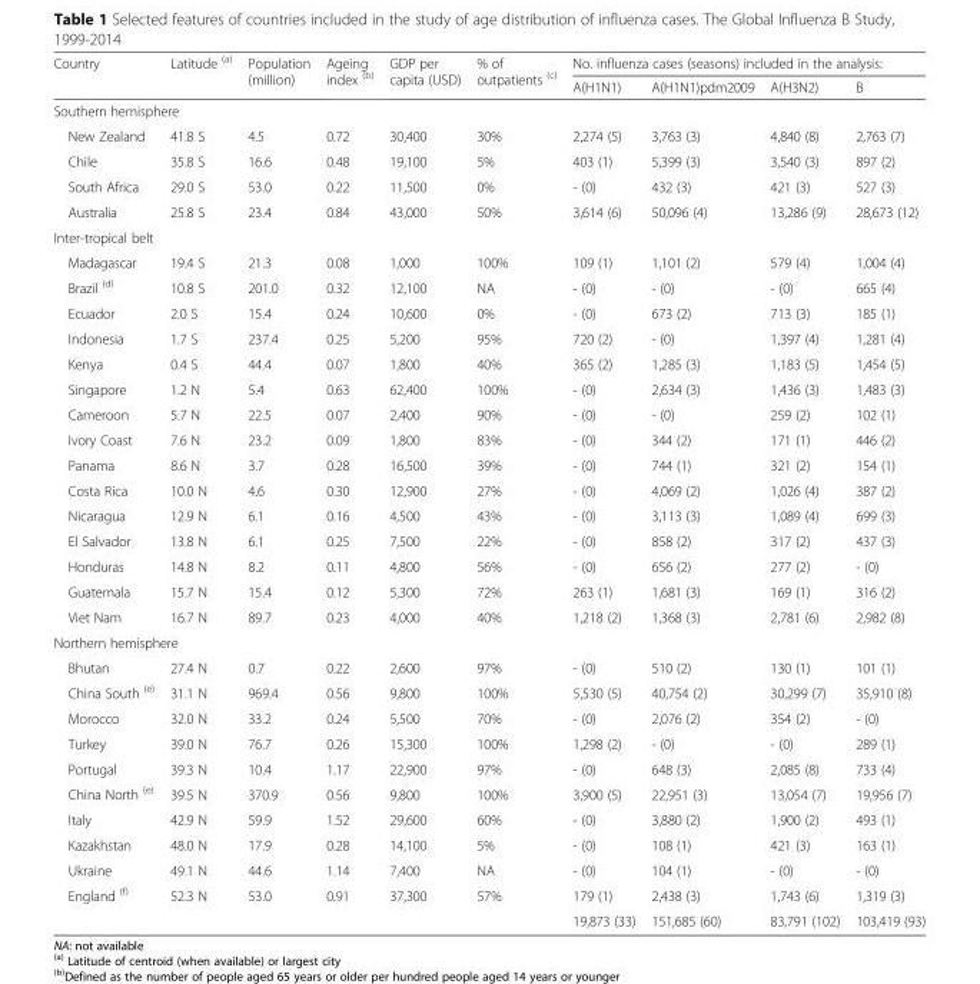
<table><thead><tr><td rowspan="2">Country</td><td rowspan="2">Latitude <sup>(a)</sup></td><td rowspan="2">Population (million)</td><td rowspan="2">Ageing index <sup>(b)</sup></td><td rowspan="2">GDP per capita (USD)</td><td rowspan="2">% of outpatients <sup>(c)</sup></td><td colspan="4">No. influenza cases (seasons) included in the analysis:</td></tr><tr><td>A(H1N1)</td><td>A(H1N1)pdm2009</td><td>A(H3N2)</td><td>B</td></tr></thead><tbody><tr><td colspan="10">Southern hemisphere</td></tr><tr><td>New Zealand</td><td>41.8 S</td><td>4.5</td><td>0.72</td><td>30,400</td><td>30%</td><td>2,274 (5)</td><td>3,763 (3)</td><td>4,840 (8)</td><td>2,763 (7)</td></tr><tr><td>Chile</td><td>35.8 S</td><td>16.6</td><td>0.48</td><td>19,100</td><td>5%</td><td>403 (1)</td><td>5,399 (3)</td><td>3,540 (3)</td><td>897 (2)</td></tr><tr><td>South Africa</td><td>29.0 S</td><td>53.0</td><td>0.22</td><td>11,500</td><td>0%</td><td>- (0)</td><td>432 (3)</td><td>421 (3)</td><td>527 (3)</td></tr><tr><td>Australia</td><td>25.8 S</td><td>23.4</td><td>0.84</td><td>43,000</td><td>50%</td><td>3,614 (6)</td><td>50,096 (4)</td><td>13,286 (9)</td><td>28,673 (12)</td></tr><tr><td colspan="10">Inter-tropical belt</td></tr><tr><td>Madagascar</td><td>19.4 S</td><td>21.3</td><td>0.08</td><td>1,000</td><td>100%</td><td>109 (1)</td><td>1,101 (2)</td><td>579 (4)</td><td>1,004 (4)</td></tr><tr><td>Brazil <sup>(d)</sup></td><td>10.8 S</td><td>201.0</td><td>0.32</td><td>12,100</td><td>NA</td><td>- (0)</td><td>- (0)</td><td>- (0)</td><td>665 (4)</td></tr><tr><td>Ecuador</td><td>2.0 S</td><td>15.4</td><td>0.24</td><td>10,600</td><td>0%</td><td>- (0)</td><td>673 (2)</td><td>713 (3)</td><td>185 (1)</td></tr><tr><td>Indonesia</td><td>1.7 S</td><td>237.4</td><td>0.25</td><td>5,200</td><td>95%</td><td>720 (2)</td><td>- (0)</td><td>1,397 (4)</td><td>1,281 (4)</td></tr><tr><td>Kenya</td><td>0.4 S</td><td>44.4</td><td>0.07</td><td>1,800</td><td>40%</td><td>365 (2)</td><td>1,285 (3)</td><td>1,183 (5)</td><td>1,454 (5)</td></tr><tr><td>Singapore</td><td>1.2 N</td><td>5.4</td><td>0.63</td><td>62,400</td><td>100%</td><td>- (0)</td><td>2,634 (3)</td><td>1,436 (3)</td><td>1,483 (3)</td></tr><tr><td>Cameroon</td><td>5.7 N</td><td>22.5</td><td>0.07</td><td>2,400</td><td>90%</td><td>- (0)</td><td>- (0)</td><td>259 (2)</td><td>102 (1)</td></tr><tr><td>Ivory Coast</td><td>7.6 N</td><td>23.2</td><td>0.09</td><td>1,800</td><td>83%</td><td>- (0)</td><td>344 (2)</td><td>171 (1)</td><td>446 (2)</td></tr><tr><td>Panama</td><td>8.6 N</td><td>3.7</td><td>0.28</td><td>16,500</td><td>39%</td><td>- (0)</td><td>744 (1)</td><td>321 (2)</td><td>154 (1)</td></tr><tr><td>Costa Rica</td><td>10.0 N</td><td>4.6</td><td>0.30</td><td>12,900</td><td>27%</td><td>- (0)</td><td>4,069 (2)</td><td>1,026 (4)</td><td>387 (2)</td></tr><tr><td>Nicaragua</td><td>12.9 N</td><td>6.1</td><td>0.16</td><td>4,500</td><td>43%</td><td>- (0)</td><td>3,113 (3)</td><td>1,089 (4)</td><td>699 (3)</td></tr><tr><td>El Salvador</td><td>13.8 N</td><td>6.1</td><td>0.25</td><td>7,500</td><td>22%</td><td>- (0)</td><td>858 (2)</td><td>317 (2)</td><td>437 (3)</td></tr><tr><td>Honduras</td><td>14.8 N</td><td>8.2</td><td>0.11</td><td>4,800</td><td>56%</td><td>- (0)</td><td>656 (2)</td><td>277 (2)</td><td>- (0)</td></tr><tr><td>Guatemala</td><td>15.7 N</td><td>15.4</td><td>0.12</td><td>5,300</td><td>72%</td><td>263 (1)</td><td>1,681 (3)</td><td>169 (1)</td><td>316 (2)</td></tr><tr><td>Viet Nam</td><td>16.7 N</td><td>89.7</td><td>0.23</td><td>4,000</td><td>40%</td><td>1,218 (2)</td><td>1,368 (3)</td><td>2,781 (6)</td><td>2,982 (8)</td></tr><tr><td colspan="10">Northern hemisphere</td></tr><tr><td>Bhutan</td><td>27.4 N</td><td>0.7</td><td>0.22</td><td>2,600</td><td>97%</td><td>- (0)</td><td>510 (2)</td><td>130 (1)</td><td>101 (1)</td></tr><tr><td>China South <sup>(e)</sup></td><td>31.1 N</td><td>969.4</td><td>0.56</td><td>9,800</td><td>100%</td><td>5,530 (5)</td><td>40,754 (2)</td><td>30,299 (7)</td><td>35,910 (8)</td></tr><tr><td>Morocco</td><td>32.0 N</td><td>33.2</td><td>0.24</td><td>5,500</td><td>70%</td><td>- (0)</td><td>2,076 (2)</td><td>354 (2)</td><td>- (0)</td></tr><tr><td>Turkey</td><td>39.0 N</td><td>76.7</td><td>0.26</td><td>15,300</td><td>100%</td><td>1,298 (2)</td><td>- (0)</td><td>- (0)</td><td>289 (1)</td></tr><tr><td>Portugal</td><td>39.3 N</td><td>10.4</td><td>1.17</td><td>22,900</td><td>97%</td><td>- (0)</td><td>648 (3)</td><td>2,085 (8)</td><td>733 (4)</td></tr><tr><td>China North <sup>(e)</sup></td><td>39.5 N</td><td>370.9</td><td>0.56</td><td>9,800</td><td>100%</td><td>3,900 (5)</td><td>22,951 (3)</td><td>13,054 (7)</td><td>19,956 (7)</td></tr><tr><td>Italy</td><td>42.9 N</td><td>59.9</td><td>1.52</td><td>29,600</td><td>60%</td><td>- (0)</td><td>3,880 (2)</td><td>1,900 (2)</td><td>493 (1)</td></tr><tr><td>Kazakhstan</td><td>48.0 N</td><td>17.9</td><td>0.28</td><td>14,100</td><td>5%</td><td>- (0)</td><td>108 (1)</td><td>421 (3)</td><td>163 (1)</td></tr><tr><td>Ukraine</td><td>49.1 N</td><td>44.6</td><td>1.14</td><td>7,400</td><td>NA</td><td>- (0)</td><td>104 (1)</td><td>- (0)</td><td>- (0)</td></tr><tr><td rowspan="2">England <sup>(f)</sup></td><td>52.3 N</td><td>53.0</td><td>0.91</td><td>37,300</td><td>57%</td><td>179 (1)</td><td>2,438 (3)</td><td>1,743 (6)</td><td>1,319 (3)</td></tr><tr><td></td><td></td><td></td><td></td><td></td><td>19,873 (33)</td><td>151,685 (60)</td><td>83,791 (102)</td><td>103,419 (93)</td></tr></tbody></table>